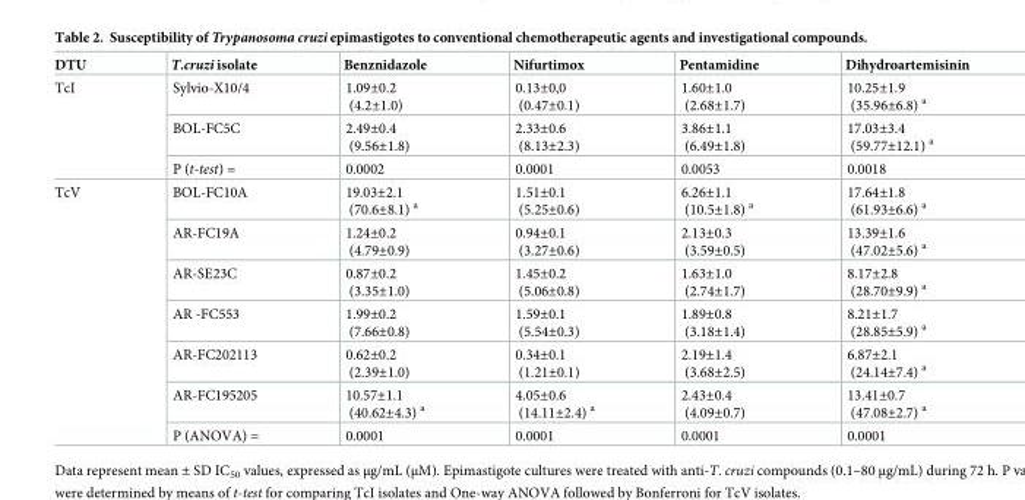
<table><thead><tr><td>DTU</td><td>T.cruzi isolate</td><td>Benznidazole</td><td>Nifurtimox</td><td>Pentamidine</td><td>Dihydroartemisinin</td></tr></thead><tbody><tr><td rowspan="3">TcI</td><td>Sylvio-X10/4</td><td>1.09±0.2 (4.2±1.0)</td><td>0.13±0,0 (0.47±0.1)</td><td>1.60±1.0 (2.68±1.7)</td><td>10.25±1.9 (35.96±6.8) <sup>a</sup></td></tr><tr><td>BOL-FC5C</td><td>2.49±0.4 (9.56±1.8)</td><td>2.33±0.6 (8.13±2.3)</td><td>3.86±1.1 (6.49±1.8)</td><td>17.03±3.4 (59.77±12.1) <sup>a</sup></td></tr><tr><td>P (t-test) =</td><td>0.0002</td><td>0.0001</td><td>0.0053</td><td>0.0018</td></tr><tr><td rowspan="7">TcV</td><td>BOL-FC10A</td><td>19.03±2.1 (70.6±8.1) <sup>a</sup></td><td>1.51±0.1 (5.25±0.6)</td><td>6.26±1.1 (10.5±1.8) <sup>a</sup></td><td>17.64±1.8 (61.93±6.6) <sup>a</sup></td></tr><tr><td>AR-FC19A</td><td>1.24±0.2 (4.79±0.9)</td><td>0.94±0.1 (3.27±0.6)</td><td>2.13±0.3 (3.59±0.5)</td><td>13.39±1.6 (47.02±5.6) <sup>a</sup></td></tr><tr><td>AR-SE23C</td><td>0.87±0.2 (3.35±1.0)</td><td>1.45±0.2 (5.06±0.8)</td><td>1.63±1.0 (2.74±1.7)</td><td>8.17±2.8 (28.70±9.9) <sup>a</sup></td></tr><tr><td>AR -FC553</td><td>1.99±0.2 (7.66±0.8)</td><td>1.59±0.1 (5.54±0.3)</td><td>1.89±0.8 (3.18±1.4)</td><td>8.21±1.7 (28.85±5.9) <sup>a</sup></td></tr><tr><td>AR-FC202113</td><td>0.62±0.2 (2.39±1.0)</td><td>0.34±0.1 (1.21±0.1)</td><td>2.19±1.4 (3.68±2.5)</td><td>6.87±2.1 (24.14±7.4) <sup>a</sup></td></tr><tr><td>AR-FC195205</td><td>10.57±1.1 (40.62±4.3) <sup>a</sup></td><td>4.05±0.6 (14.11±2.4) <sup>a</sup></td><td>2.43±0.4 (4.09±0.7)</td><td>13.41±0.7 (47.08±2.7) <sup>a</sup></td></tr><tr><td>P (ANOVA) =</td><td>0.0001</td><td>0.0001</td><td>0.0001</td><td>0.0001</td></tr></tbody></table>